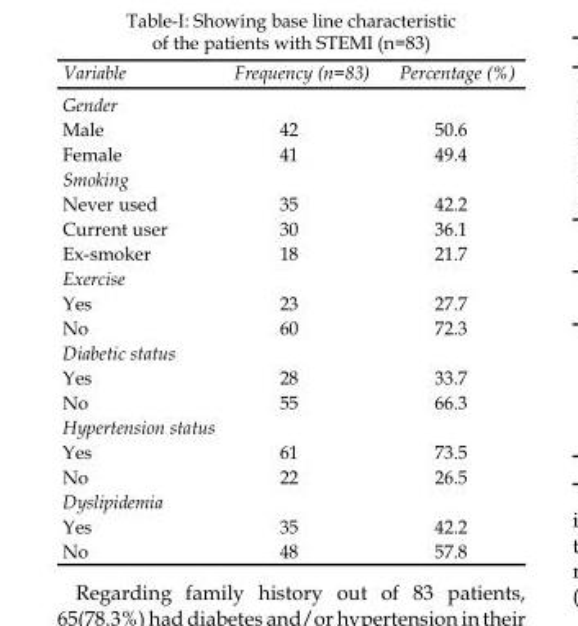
<table><thead><tr><td>Variable</td><td>Frequency (n=83)</td><td>Percentage (%)</td></tr></thead><tbody><tr><td colspan="3">Gender</td></tr><tr><td>Male</td><td>42</td><td>50.6</td></tr><tr><td>Female</td><td>41</td><td>49.4</td></tr><tr><td colspan="3">Smoking</td></tr><tr><td>Never used</td><td>35</td><td>42.2</td></tr><tr><td>Current user</td><td>30</td><td>36.1</td></tr><tr><td>Ex-smoker</td><td>18</td><td>21.7</td></tr><tr><td colspan="3">Exercise</td></tr><tr><td>Yes</td><td>23</td><td>27.7</td></tr><tr><td>No</td><td>60</td><td>72.3</td></tr><tr><td colspan="3">Diabetic status</td></tr><tr><td>Yes</td><td>28</td><td>33.7</td></tr><tr><td>No</td><td>55</td><td>66.3</td></tr><tr><td colspan="3">Hypertension status</td></tr><tr><td>Yes</td><td>61</td><td>73.5</td></tr><tr><td>No</td><td>22</td><td>26.5</td></tr><tr><td colspan="3">Dyslipidemia</td></tr><tr><td>Yes</td><td>35</td><td>42.2</td></tr><tr><td>No</td><td>48</td><td>57.8</td></tr></tbody></table>